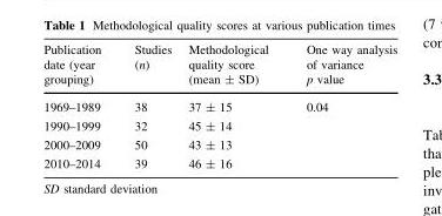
<table><thead><tr><td>Publication date (year grouping)</td><td>Studies (n)</td><td>Methodological quality score (mean ± SD)</td><td>One way analysis of variance p value</td></tr></thead><tbody><tr><td>1969–1989</td><td>38</td><td>37 ± 15</td><td rowspan="4">0.04</td></tr><tr><td>1990–1999</td><td>32</td><td>45 ± 14</td></tr><tr><td>2000–2009</td><td>50</td><td>43 ± 13</td></tr><tr><td>2010–2014</td><td>39</td><td>46 ± 16</td></tr></tbody></table>